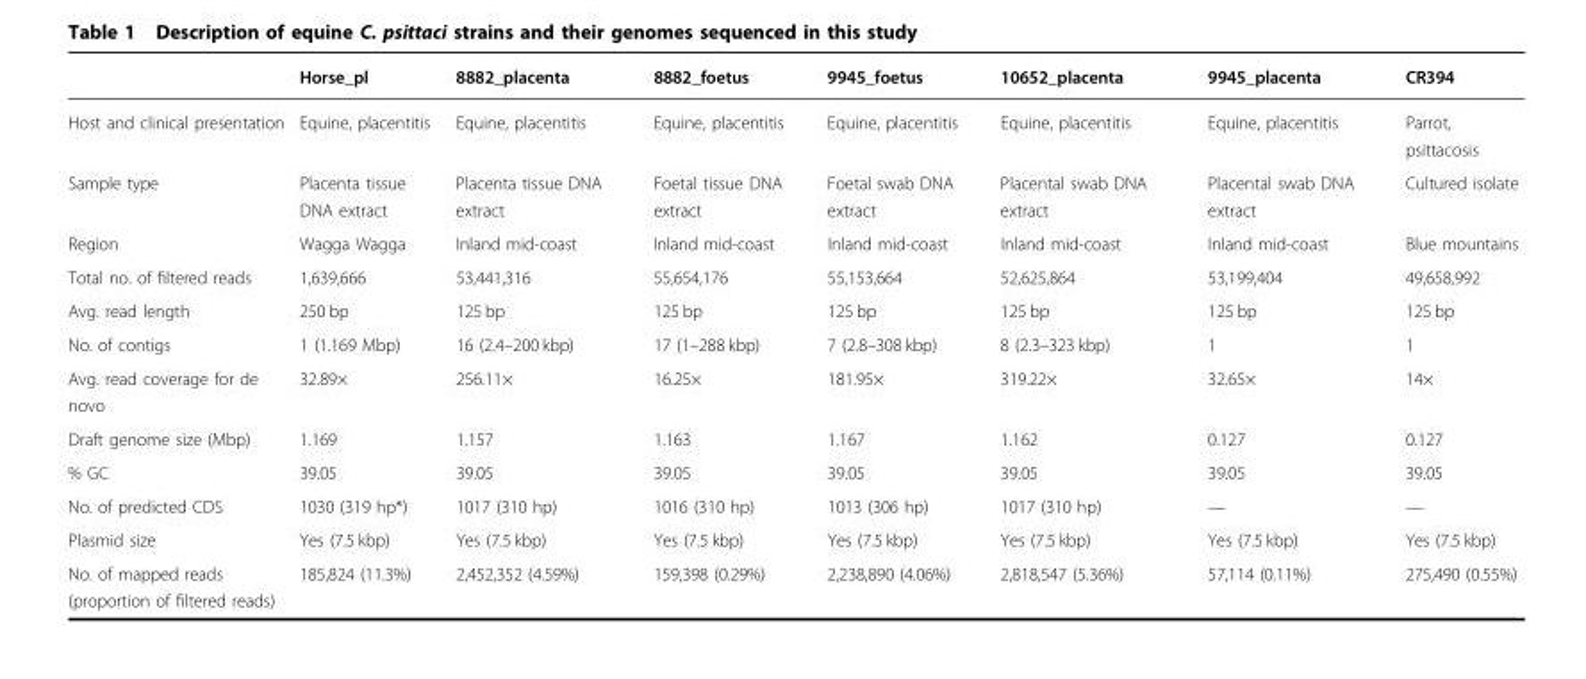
<table><thead><tr><td></td><td>Horse_pl</td><td>8882_placenta</td><td>8882_foetus</td><td>9945_foetus</td><td>10652_placenta</td><td>9945_placenta</td><td>CR394</td></tr></thead><tbody><tr><td>Host and clinical presentation</td><td>Equine, placentitis</td><td>Equine, placentitis</td><td>Equine, placentitis</td><td>Equine, placentitis</td><td>Equine, placentitis</td><td>Equine, placentitis</td><td>Parrot, psittacosis</td></tr><tr><td>Sample type</td><td>Placenta tissue DNA extract</td><td>Placenta tissue DNA extract</td><td>Foetal tissue DNA extract</td><td>Foetal swab DNA extract</td><td>Placental swab DNA extract</td><td>Placental swab DNA extract</td><td>Cultured isolate</td></tr><tr><td>Region</td><td>Wagga Wagga</td><td>Inland mid-coast</td><td>Inland mid-coast</td><td>Inland mid-coast</td><td>Inland mid-coast</td><td>Inland mid-coast</td><td>Blue mountains</td></tr><tr><td>Total no. of filtered reads</td><td>1,639,666</td><td>53,441,316</td><td>55,654,176</td><td>55,153,664</td><td>52,625,864</td><td>53,199,404</td><td>49,658,992</td></tr><tr><td>Avg. read length</td><td>250 bp</td><td>125 bp</td><td>125 bp</td><td>125 bp</td><td>125 bp</td><td>125 bp</td><td>125 bp</td></tr><tr><td>No. of contigs</td><td>1 (1.169 Mbp)</td><td>16 (2.4–200 kbp)</td><td>17 (1–288 kbp)</td><td>7 (2.8–308 kbp)</td><td>8 (2.3–323 kbp)</td><td>1</td><td>1</td></tr><tr><td>Avg. read coverage for de novo</td><td>32.89×</td><td>256.11×</td><td>16.25×</td><td>181.95×</td><td>319.22×</td><td>32.65×</td><td>14×</td></tr><tr><td>Draft genome size (Mbp)</td><td>1.169</td><td>1.157</td><td>1.163</td><td>1.167</td><td>1.162</td><td>0.127</td><td>0.127</td></tr><tr><td>% GC</td><td>39.05</td><td>39.05</td><td>39.05</td><td>39.05</td><td>39.05</td><td>39.05</td><td>39.05</td></tr><tr><td>No. of predicted CDS</td><td>1030 (319 hp*)</td><td>1017 (310 hp)</td><td>1016 (310 hp)</td><td>1013 (306 hp)</td><td>1017 (310 hp)</td><td>—</td><td>—</td></tr><tr><td>Plasmid size</td><td>Yes (7.5 kbp)</td><td>Yes (7.5 kbp)</td><td>Yes (7.5 kbp)</td><td>Yes (7.5 kbp)</td><td>Yes (7.5 kbp)</td><td>Yes (7.5 kbp)</td><td>Yes (7.5 kbp)</td></tr><tr><td>No. of mapped reads (proportion of filtered reads)</td><td>185,824 (11.3%)</td><td>2,452,352 (4.59%)</td><td>159,398 (0.29%)</td><td>2,238,890 (4.06%)</td><td>2,818,547 (5.36%)</td><td>57,114 (0.11%)</td><td>275,490 (0.55%)</td></tr></tbody></table>